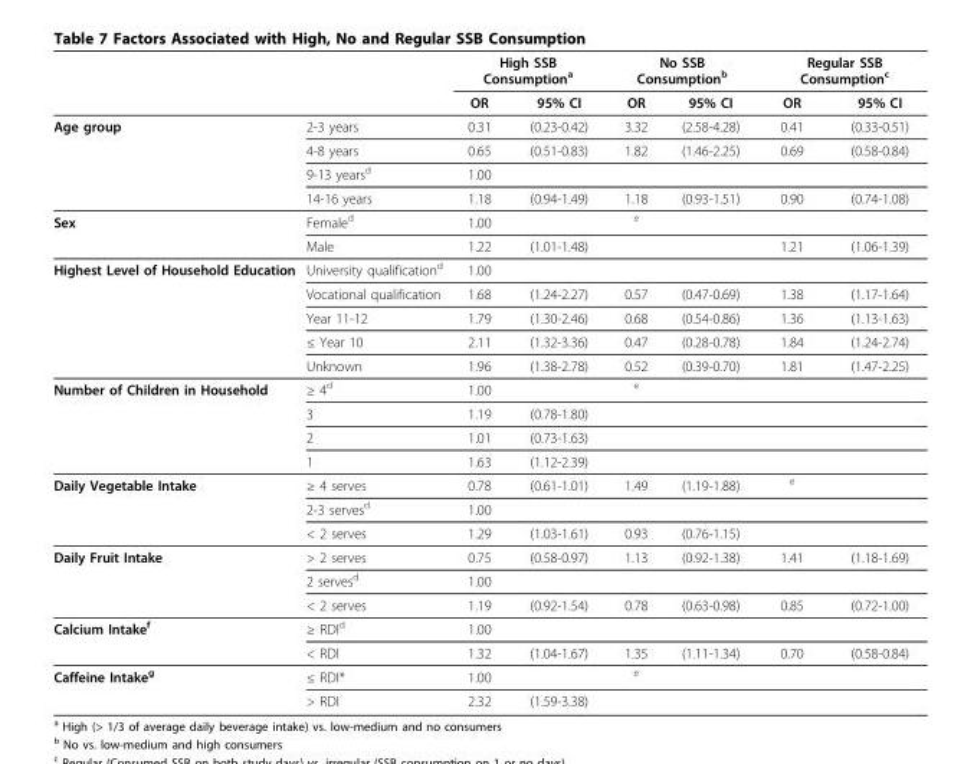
<table><thead><tr><td rowspan="2"></td><td rowspan="2"></td><td colspan="2">High SSB Consumption<sup>a</sup></td><td colspan="2">No SSB Consumption<sup>b</sup></td><td colspan="2">Regular SSB Consumption<sup>c</sup></td></tr><tr><td>OR</td><td>95% CI</td><td>OR</td><td>95% CI</td><td>OR</td><td>95% CI</td></tr></thead><tbody><tr><td rowspan="4">Age group</td><td>2-3 years</td><td>0.31</td><td>(0.23-0.42)</td><td>3.32</td><td>(2.58-4.28)</td><td>0.41</td><td>(0.33-0.51)</td></tr><tr><td>4-8 years</td><td>0.65</td><td>(0.51-0.83)</td><td>1.82</td><td>(1.46-2.25)</td><td>0.69</td><td>(0.58-0.84)</td></tr><tr><td>9-13 years<sup>d</sup></td><td>1.00</td><td></td><td></td><td></td><td></td><td></td></tr><tr><td>14-16 years</td><td>1.18</td><td>(0.94-1.49)</td><td>1.18</td><td>(0.93-1.51)</td><td>0.90</td><td>(0.74-1.08)</td></tr><tr><td rowspan="2">Sex</td><td>Female<sup>d</sup></td><td>1.00</td><td></td><td><sup>e</sup></td><td></td><td></td><td></td></tr><tr><td>Male</td><td>1.22</td><td>(1.01-1.48)</td><td></td><td></td><td>1.21</td><td>(1.06-1.39)</td></tr><tr><td rowspan="5">Highest Level of Household Education</td><td>University qualification<sup>d</sup></td><td>1.00</td><td></td><td></td><td></td><td></td><td></td></tr><tr><td>Vocational qualification</td><td>1.68</td><td>(1.24-2.27)</td><td>0.57</td><td>(0.47-0.69)</td><td>1.38</td><td>(1.17-1.64)</td></tr><tr><td>Year 11-12</td><td>1.79</td><td>(1.30-2.46)</td><td>0.68</td><td>(0.54-0.86)</td><td>1.36</td><td>(1.13-1.63)</td></tr><tr><td>≤ Year 10</td><td>2.11</td><td>(1.32-3.36)</td><td>0.47</td><td>(0.28-0.78)</td><td>1.84</td><td>(1.24-2.74)</td></tr><tr><td>Unknown</td><td>1.96</td><td>(1.38-2.78)</td><td>0.52</td><td>(0.39-0.70)</td><td>1.81</td><td>(1.47-2.25)</td></tr><tr><td rowspan="4">Number of Children in Household</td><td>≥ 4<sup>d</sup></td><td>1.00</td><td></td><td><sup>e</sup></td><td></td><td></td><td></td></tr><tr><td>3</td><td>1.19</td><td>(0.78-1.80)</td><td></td><td></td><td></td><td></td></tr><tr><td>2</td><td>1.01</td><td>(0.73-1.63)</td><td></td><td></td><td></td><td></td></tr><tr><td>1</td><td>1.63</td><td>(1.12-2.39)</td><td></td><td></td><td></td><td></td></tr><tr><td rowspan="3">Daily Vegetable Intake</td><td>≥ 4 serves</td><td>0.78</td><td>(0.61-1.01)</td><td>1.49</td><td>(1.19-1.88)</td><td><sup>e</sup></td><td></td></tr><tr><td>2-3 serves<sup>d</sup></td><td>1.00</td><td></td><td></td><td></td><td></td><td></td></tr><tr><td>&lt; 2 serves</td><td>1.29</td><td>(1.03-1.61)</td><td>0.93</td><td>(0.76-1.15)</td><td></td><td></td></tr><tr><td rowspan="3">Daily Fruit Intake</td><td>&gt; 2 serves</td><td>0.75</td><td>(0.58-0.97)</td><td>1.13</td><td>(0.92-1.38)</td><td>1.41</td><td>(1.18-1.69)</td></tr><tr><td>2 serves<sup>d</sup></td><td>1.00</td><td></td><td></td><td></td><td></td><td></td></tr><tr><td>&lt; 2 serves</td><td>1.19</td><td>(0.92-1.54)</td><td>0.78</td><td>(0.63-0.98)</td><td>0.85</td><td>(0.72-1.00)</td></tr><tr><td rowspan="2">Calcium Intake<sup>f</sup></td><td>≥ RDI<sup>d</sup></td><td>1.00</td><td></td><td></td><td></td><td></td><td></td></tr><tr><td>&lt; RDI</td><td>1.32</td><td>(1.04-1.67)</td><td>1.35</td><td>(1.11-1.34)</td><td>0.70</td><td>(0.58-0.84)</td></tr><tr><td rowspan="2">Caffeine Intake<sup>g</sup></td><td>≤ RDI*</td><td>1.00</td><td></td><td><sup>e</sup></td><td></td><td></td><td></td></tr><tr><td>&gt; RDI</td><td>2.32</td><td>(1.59-3.38)</td><td></td><td></td><td></td><td></td></tr></tbody></table>